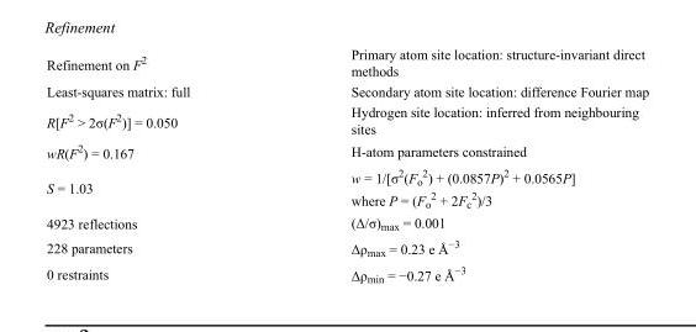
<table><tbody><tr><td>Refinement on F<sup>2</sup></td><td>Primary atom site location: structure-invariant direct methods</td></tr><tr><td>Least-squares matrix: full</td><td>Secondary atom site location: difference Fourier map</td></tr><tr><td>R[F<sup>2</sup> &gt; 2σ(F<sup>2</sup>)] = 0.050</td><td>Hydrogen site location: inferred from neighbouring sites</td></tr><tr><td>wR(F<sup>2</sup>) = 0.167</td><td>H-atom parameters constrained</td></tr><tr><td>S = 1.03</td><td>w = 1/[σ<sup>2</sup>(F<sub>o</sub> <sup>2</sup>) + (0.0857P)<sup>2</sup> + 0.0565P] where P = (F<sub>o</sub> <sup>2</sup> + 2F<sub>c</sub> <sup>2</sup>)/3</td></tr><tr><td>4923 reflections</td><td>(Δ/σ)<sub>max</sub> = 0.001</td></tr><tr><td>228 parameters</td><td>Δρ<sub>max</sub> = 0.23 e Å<sup>−3</sup></td></tr><tr><td>0 restraints</td><td>Δρ<sub>min</sub> = −0.27 e Å<sup>−3</sup></td></tr></tbody></table>